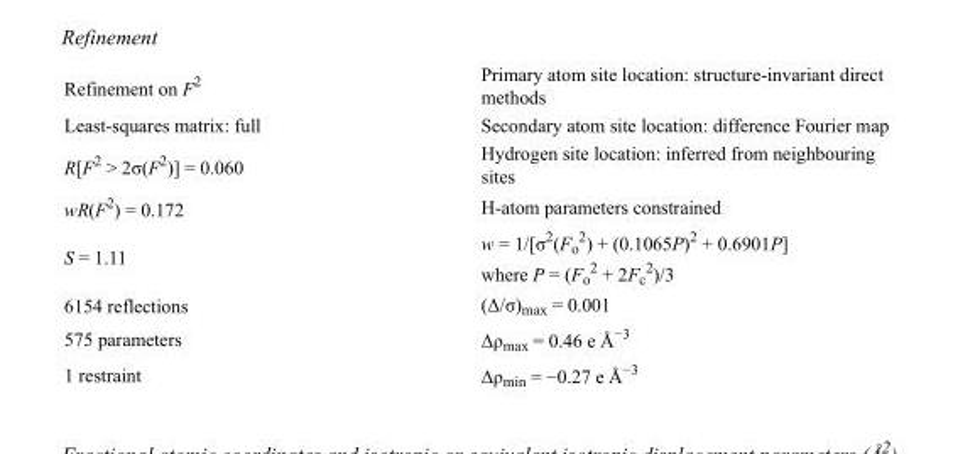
<table><tbody><tr><td>Refinement on F<sup>2</sup></td><td>Primary atom site location: structure-invariant direct methods</td></tr><tr><td>Least-squares matrix: full</td><td>Secondary atom site location: difference Fourier map</td></tr><tr><td>R[F<sup>2</sup> &gt; 2σ(F<sup>2</sup>)] = 0.060</td><td>Hydrogen site location: inferred from neighbouring sites</td></tr><tr><td>wR(F<sup>2</sup>) = 0.172</td><td>H-atom parameters constrained</td></tr><tr><td>S = 1.11</td><td>w = 1/[σ<sup>2</sup>(F<sub>o</sub> <sup>2</sup>) + (0.1065P)<sup>2</sup> + 0.6901P] where P = (F<sub>o</sub> <sup>2</sup> + 2F<sub>c</sub> <sup>2</sup>)/3</td></tr><tr><td>6154 reflections</td><td>(Δ/σ)<sub>max</sub> = 0.001</td></tr><tr><td>575 parameters</td><td>Δρ<sub>max</sub> = 0.46 e Å<sup>−3</sup></td></tr><tr><td>1 restraint</td><td>Δρ<sub>min</sub> = −0.27 e Å<sup>−3</sup></td></tr></tbody></table>